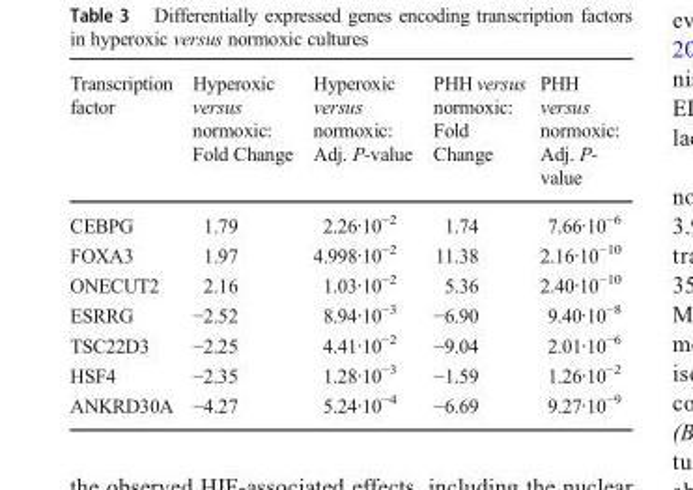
<table><thead><tr><td>Transcription factor</td><td>Hyperoxic versus normoxic: Fold Change</td><td>Hyperoxic versus normoxic: Adj. P-value</td><td>PHH versus normoxic: Fold Change</td><td>PHH versus normoxic: Adj. P- value</td></tr></thead><tbody><tr><td>CEBPG</td><td>1.79</td><td>2.26∙10<sup>−2</sup></td><td>1.74</td><td>7.66∙10<sup>−6</sup></td></tr><tr><td>FOXA3</td><td>1.97</td><td>4.998∙10<sup>−2</sup></td><td>11.38</td><td>2.16∙10<sup>−10</sup></td></tr><tr><td>ONECUT2</td><td>2.16</td><td>1.03∙10<sup>−2</sup></td><td>5.36</td><td>2.40∙10<sup>−10</sup></td></tr><tr><td>ESRRG</td><td>−2.52</td><td>8.94∙10<sup>−3</sup></td><td>−6.90</td><td>9.40∙10<sup>−8</sup></td></tr><tr><td>TSC22D3</td><td>−2.25</td><td>4.41∙10<sup>−2</sup></td><td>−9.04</td><td>2.01∙10<sup>−6</sup></td></tr><tr><td>HSF4</td><td>−2.35</td><td>1.28∙10<sup>−3</sup></td><td>−1.59</td><td>1.26∙10<sup>−2</sup></td></tr><tr><td>ANKRD30A</td><td>−4.27</td><td>5.24∙10<sup>−4</sup></td><td>−6.69</td><td>9.27∙10<sup>−9</sup></td></tr></tbody></table>